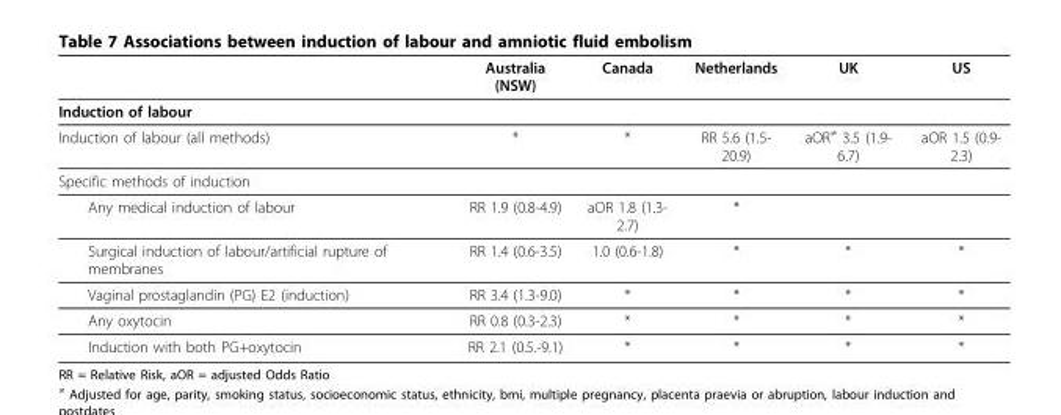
<table><thead><tr><td></td><td>Australia (NSW)</td><td>Canada</td><td>Netherlands</td><td>UK</td><td>US</td></tr></thead><tbody><tr><td colspan="6">Induction of labour</td></tr><tr><td>Induction of labour (all methods)</td><td>*</td><td>*</td><td>RR 5.6 (1.5- 20.9)</td><td>aOR≠ 3.5 (1.9- 6.7)</td><td>aOR 1.5 (0.9- 2.3)</td></tr><tr><td colspan="6">Specific methods of induction</td></tr><tr><td>Any medical induction of labour</td><td>RR 1.9 (0.8-4.9)</td><td>aOR 1.8 (1.3- 2.7)</td><td>*</td><td></td><td></td></tr><tr><td>Surgical induction of labour/artificial rupture of membranes</td><td>RR 1.4 (0.6-3.5)</td><td>1.0 (0.6-1.8)</td><td>*</td><td>*</td><td>*</td></tr><tr><td>Vaginal prostaglandin (PG) E2 (induction)</td><td>RR 3.4 (1.3-9.0)</td><td>*</td><td>*</td><td>*</td><td>*</td></tr><tr><td>Any oxytocin</td><td>RR 0.8 (0.3-2.3)</td><td>*</td><td>*</td><td>*</td><td>*</td></tr><tr><td>Induction with both PG+oxytocin</td><td>RR 2.1 (0.5.-9.1)</td><td>*</td><td>*</td><td>*</td><td>*</td></tr></tbody></table>